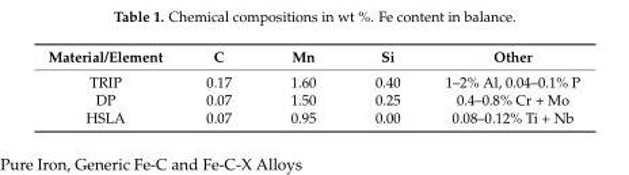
<table><thead><tr><td>Material/Element</td><td>C</td><td>Mn</td><td>Si</td><td>Other</td></tr></thead><tbody><tr><td>TRIP</td><td>0.17</td><td>1.60</td><td>0.40</td><td>1–2% Al, 0.04–0.1% P</td></tr><tr><td>DP</td><td>0.07</td><td>1.50</td><td>0.25</td><td>0.4–0.8% Cr + Mo</td></tr><tr><td>HSLA</td><td>0.07</td><td>0.95</td><td>0.00</td><td>0.08–0.12% Ti + Nb</td></tr></tbody></table>